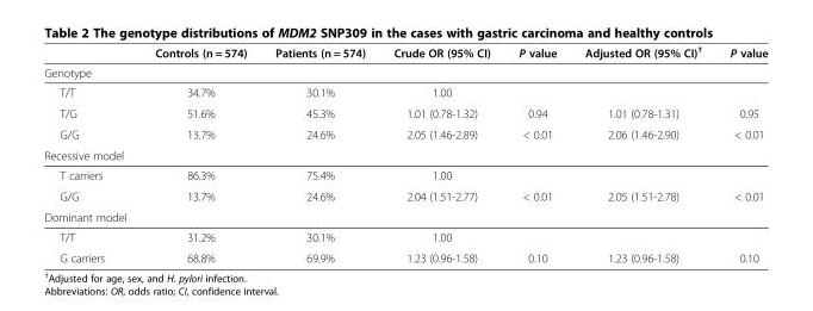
<table><thead><tr><td></td><td>Controls (n = 574)</td><td>Patients (n = 574)</td><td>Crude OR (95% CI)</td><td>P value</td><td>Adjusted OR (95% CI)<sup>†</sup></td><td>P value</td></tr></thead><tbody><tr><td colspan="7">Genotype</td></tr><tr><td>T/T</td><td>34.7%</td><td>30.1%</td><td>1.00</td><td></td><td></td><td></td></tr><tr><td>T/G</td><td>51.6%</td><td>45.3%</td><td>1.01 (0.78-1.32)</td><td>0.94</td><td>1.01 (0.78-1.31)</td><td>0.95</td></tr><tr><td>G/G</td><td>13.7%</td><td>24.6%</td><td>2.05 (1.46-2.89)</td><td>&lt; 0.01</td><td>2.06 (1.46-2.90)</td><td>&lt; 0.01</td></tr><tr><td colspan="7">Recessive model</td></tr><tr><td>T carriers</td><td>86.3%</td><td>75.4%</td><td>1.00</td><td></td><td></td><td></td></tr><tr><td>G/G</td><td>13.7%</td><td>24.6%</td><td>2.04 (1.51-2.77)</td><td>&lt; 0.01</td><td>2.05 (1.51-2.78)</td><td>&lt; 0.01</td></tr><tr><td colspan="7">Dominant model</td></tr><tr><td>T/T</td><td>31.2%</td><td>30.1%</td><td>1.00</td><td></td><td></td><td></td></tr><tr><td>G carriers</td><td>68.8%</td><td>69.9%</td><td>1.23 (0.96-1.58)</td><td>0.10</td><td>1.23 (0.96-1.58)</td><td>0.10</td></tr></tbody></table>